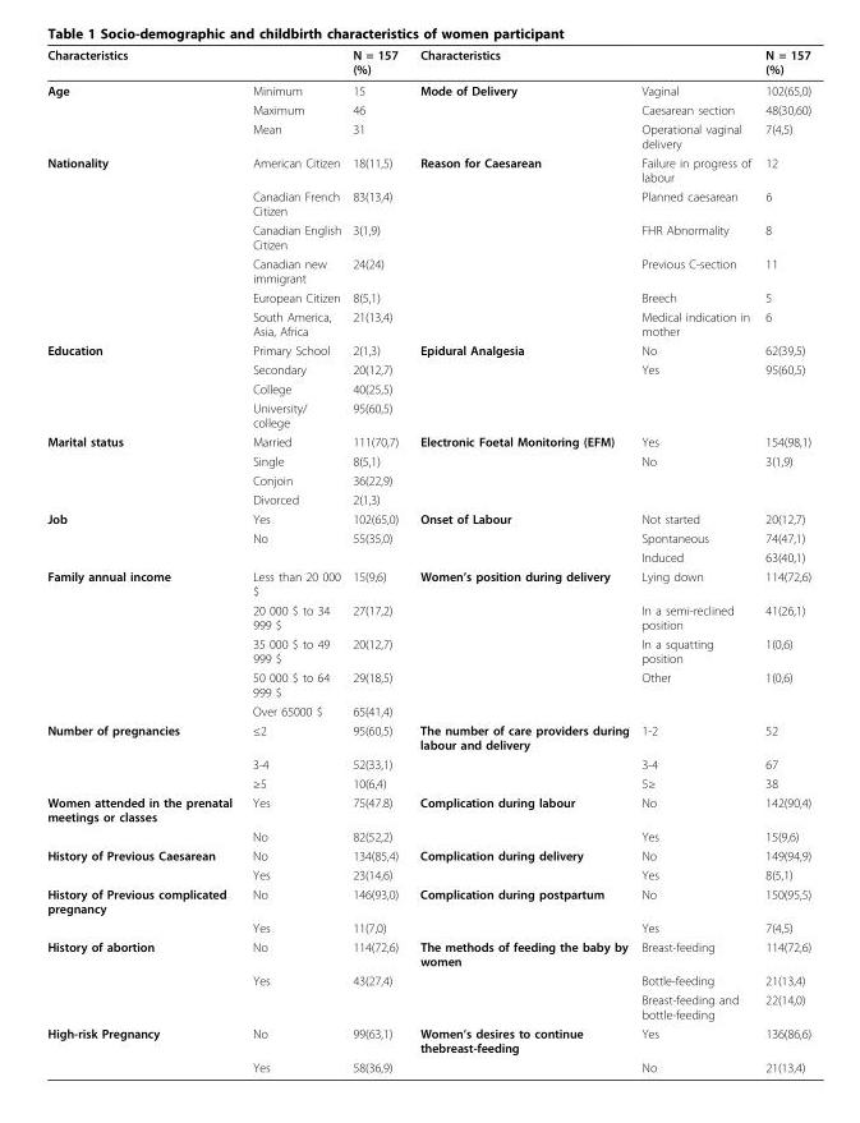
<table><thead><tr><td>Characteristics</td><td></td><td>N = 157 (%)</td><td>Characteristics</td><td></td><td>N = 157 (%)</td></tr></thead><tbody><tr><td rowspan="3">Age</td><td>Minimum</td><td>15</td><td>Mode of Delivery</td><td>Vaginal</td><td>102(65,0)</td></tr><tr><td>Maximum</td><td>46</td><td></td><td>Caesarean section</td><td>48(30,60)</td></tr><tr><td>Mean</td><td>31</td><td></td><td>Operational vaginal delivery</td><td>7(4,5)</td></tr><tr><td rowspan="6">Nationality</td><td>American Citizen</td><td>18(11,5)</td><td>Reason for Caesarean</td><td>Failure in progress of labour</td><td>12</td></tr><tr><td>Canadian French Citizen</td><td>83(13,4)</td><td></td><td>Planned caesarean</td><td>6</td></tr><tr><td>Canadian English Citizen</td><td>3(1,9)</td><td></td><td>FHR Abnormality</td><td>8</td></tr><tr><td>Canadian new immigrant</td><td>24(24)</td><td></td><td>Previous C-section</td><td>11</td></tr><tr><td>European Citizen</td><td>8(5,1)</td><td></td><td>Breech</td><td>5</td></tr><tr><td>South America, Asia, Africa</td><td>21(13,4)</td><td></td><td>Medical indication in mother</td><td>6</td></tr><tr><td rowspan="4">Education</td><td>Primary School</td><td>2(1,3)</td><td>Epidural Analgesia</td><td>No</td><td>62(39,5)</td></tr><tr><td>Secondary</td><td>20(12,7)</td><td></td><td>Yes</td><td>95(60,5)</td></tr><tr><td>College</td><td>40(25,5)</td><td></td><td></td><td></td></tr><tr><td>University/ college</td><td>95(60,5)</td><td></td><td></td><td></td></tr><tr><td rowspan="4">Marital status</td><td>Married</td><td>111(70,7)</td><td>Electronic Foetal Monitoring (EFM)</td><td>Yes</td><td>154(98,1)</td></tr><tr><td>Single</td><td>8(5,1)</td><td></td><td>No</td><td>3(1,9)</td></tr><tr><td>Conjoin</td><td>36(22,9)</td><td></td><td></td><td></td></tr><tr><td>Divorced</td><td>2(1,3)</td><td></td><td></td><td></td></tr><tr><td rowspan="3">Job</td><td>Yes</td><td>102(65,0)</td><td>Onset of Labour</td><td>Not started</td><td>20(12,7)</td></tr><tr><td>No</td><td>55(35,0)</td><td></td><td>Spontaneous</td><td>74(47,1)</td></tr><tr><td></td><td></td><td></td><td>Induced</td><td>63(40,1)</td></tr><tr><td rowspan="5">Family annual income</td><td>Less than 20 000 $</td><td>15(9,6)</td><td>Women’s position during delivery</td><td>Lying down</td><td>114(72,6)</td></tr><tr><td>20 000 $ to 34 999 $</td><td>27(17,2)</td><td></td><td>In a semi-reclined position</td><td>41(26,1)</td></tr><tr><td>35 000 $ to 49 999 $</td><td>20(12,7)</td><td></td><td>In a squatting position</td><td>1(0,6)</td></tr><tr><td>50 000 $ to 64 999 $</td><td>29(18,5)</td><td></td><td>Other</td><td>1(0,6)</td></tr><tr><td>Over 65000 $</td><td>65(41,4)</td><td></td><td></td><td></td></tr><tr><td rowspan="3">Number of pregnancies</td><td>≤2</td><td>95(60,5)</td><td>The number of care providers during labour and delivery</td><td>1-2</td><td>52</td></tr><tr><td>3-4</td><td>52(33,1)</td><td></td><td>3-4</td><td>67</td></tr><tr><td>≥5</td><td>10(6,4)</td><td></td><td>5≥</td><td>38</td></tr><tr><td rowspan="2">Women attended in the prenatal meetings or classes</td><td>Yes</td><td>75(47.8)</td><td>Complication during labour</td><td>No</td><td>142(90,4)</td></tr><tr><td>No</td><td>82(52,2)</td><td></td><td>Yes</td><td>15(9,6)</td></tr><tr><td rowspan="2">History of Previous Caesarean</td><td>No</td><td>134(85,4)</td><td>Complication during delivery</td><td>No</td><td>149(94,9)</td></tr><tr><td>Yes</td><td>23(14,6)</td><td></td><td>Yes</td><td>8(5,1)</td></tr><tr><td rowspan="2">History of Previous complicated pregnancy</td><td>No</td><td>146(93,0)</td><td>Complication during postpartum</td><td>No</td><td>150(95,5)</td></tr><tr><td>Yes</td><td>11(7,0)</td><td></td><td>Yes</td><td>7(4,5)</td></tr><tr><td rowspan="3">History of abortion</td><td>No</td><td>114(72,6)</td><td>The methods of feeding the baby by women</td><td>Breast-feeding</td><td>114(72,6)</td></tr><tr><td>Yes</td><td>43(27,4)</td><td></td><td>Bottle-feeding</td><td>21(13,4)</td></tr><tr><td></td><td></td><td></td><td>Breast-feeding and bottle-feeding</td><td>22(14,0)</td></tr><tr><td rowspan="2">High-risk Pregnancy</td><td>No</td><td>99(63,1)</td><td>Women’s desires to continue thebreast-feeding</td><td>Yes</td><td>136(86,6)</td></tr><tr><td>Yes</td><td>58(36,9)</td><td></td><td>No</td><td>21(13,4)</td></tr></tbody></table>